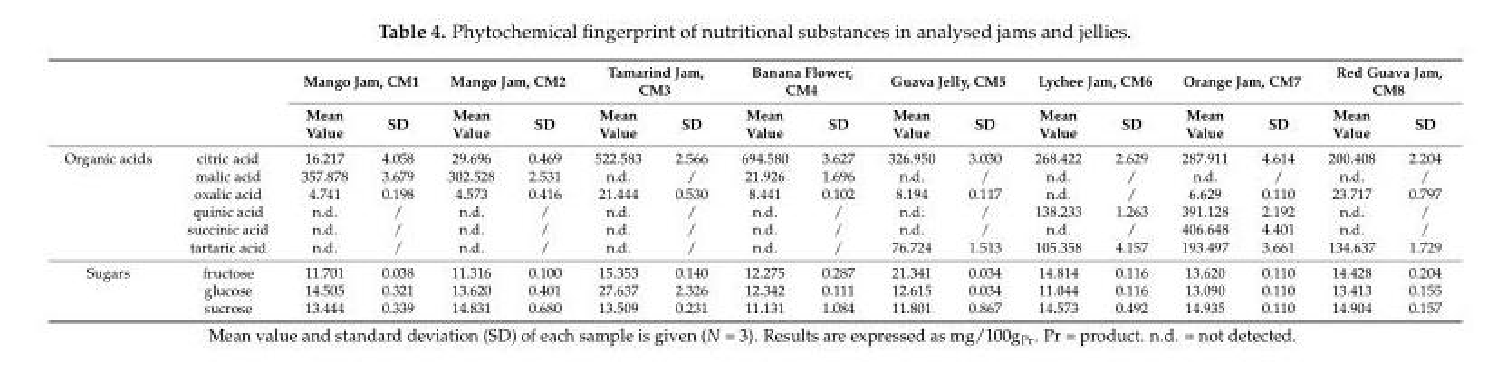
<table><thead><tr><td rowspan="2"></td><td rowspan="2"></td><td colspan="2">Mango Jam, CM1</td><td colspan="2">Mango Jam, CM2</td><td colspan="2">Tamarind Jam, CM3</td><td colspan="2">Banana Flower, CM4</td><td colspan="2">Guava Jelly, CM5</td><td colspan="2">Lychee Jam, CM6</td><td colspan="2">Orange Jam, CM7</td><td colspan="2">Red Guava Jam, CM8</td></tr><tr><td>Mean Value</td><td>SD</td><td>Mean Value</td><td>SD</td><td>Mean Value</td><td>SD</td><td>Mean Value</td><td>SD</td><td>Mean Value</td><td>SD</td><td>Mean Value</td><td>SD</td><td>Mean Value</td><td>SD</td><td>Mean Value</td><td>SD</td></tr></thead><tbody><tr><td rowspan="6">Organic acids</td><td>citric acid</td><td>16.217</td><td>4.058</td><td>29.696</td><td>0.469</td><td>522.583</td><td>2.566</td><td>694.580</td><td>3.627</td><td>326.950</td><td>3.030</td><td>268.422</td><td>2.629</td><td>287.911</td><td>4.614</td><td>200.408</td><td>2.204</td></tr><tr><td>malic acid</td><td>357.878</td><td>3.679</td><td>302.528</td><td>2.531</td><td>n.d.</td><td>/</td><td>21.926</td><td>1.696</td><td>n.d.</td><td>/</td><td>n.d.</td><td>/</td><td>n.d.</td><td>/</td><td>n.d.</td><td>/</td></tr><tr><td>oxalic acid</td><td>4.741</td><td>0.198</td><td>4.573</td><td>0.416</td><td>21.444</td><td>0.530</td><td>8.441</td><td>0.102</td><td>8.194</td><td>0.117</td><td>n.d.</td><td>/</td><td>6.629</td><td>0.110</td><td>23.717</td><td>0.797</td></tr><tr><td>quinic acid</td><td>n.d.</td><td>/</td><td>n.d.</td><td>/</td><td>n.d.</td><td>/</td><td>n.d.</td><td>/</td><td>n.d.</td><td>/</td><td>138.233</td><td>1.263</td><td>391.128</td><td>2.192</td><td>n.d.</td><td>/</td></tr><tr><td>succinic acid</td><td>n.d.</td><td>/</td><td>n.d.</td><td>/</td><td>n.d.</td><td>/</td><td>n.d.</td><td>/</td><td>n.d.</td><td>/</td><td>n.d.</td><td>/</td><td>406.648</td><td>4.401</td><td>n.d.</td><td>/</td></tr><tr><td>tartaric acid</td><td>n.d.</td><td>/</td><td>n.d.</td><td>/</td><td>n.d.</td><td>/</td><td>n.d.</td><td>/</td><td>76.724</td><td>1.513</td><td>105.358</td><td>4.157</td><td>193.497</td><td>3.661</td><td>134.637</td><td>1.729</td></tr><tr><td rowspan="3">Sugars</td><td>fructose</td><td>11.701</td><td>0.038</td><td>11.316</td><td>0.100</td><td>15.353</td><td>0.140</td><td>12.275</td><td>0.287</td><td>21.341</td><td>0.034</td><td>14.814</td><td>0.116</td><td>13.620</td><td>0.110</td><td>14.428</td><td>0.204</td></tr><tr><td>glucose</td><td>14.505</td><td>0.321</td><td>13.620</td><td>0.401</td><td>27.637</td><td>2.326</td><td>12.342</td><td>0.111</td><td>12.615</td><td>0.034</td><td>11.044</td><td>0.116</td><td>13.090</td><td>0.110</td><td>13.413</td><td>0.155</td></tr><tr><td>sucrose</td><td>13.444</td><td>0.339</td><td>14.831</td><td>0.680</td><td>13.509</td><td>0.231</td><td>11.131</td><td>1.084</td><td>11.801</td><td>0.867</td><td>14.573</td><td>0.492</td><td>14.935</td><td>0.110</td><td>14.904</td><td>0.157</td></tr></tbody></table>